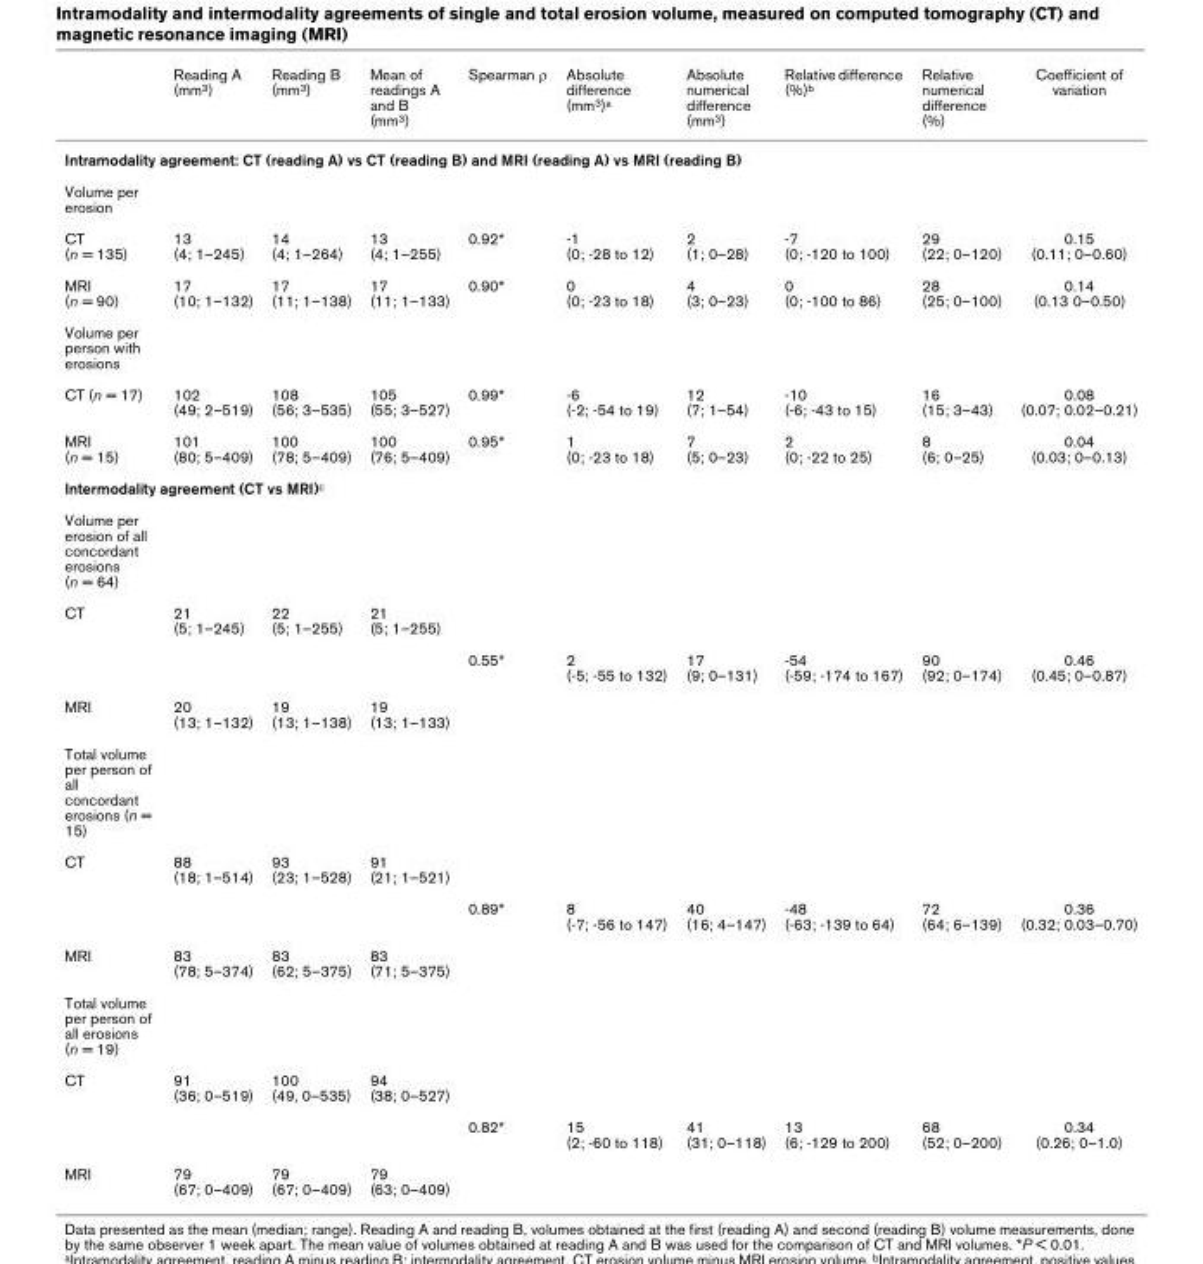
<table><thead><tr><td></td><td>Reading A (mm<sup>3</sup>)</td><td>Reading B (mm<sup>3</sup>)</td><td>Mean of readings A and B (mm<sup>3</sup>)</td><td>Spearman ρ</td><td>Absolute difference (mm<sup>3</sup>)<sup>a</sup></td><td>Absolute numerical difference (mm<sup>3</sup>)</td><td>Relative difference (%)<sup>b</sup></td><td>Relative numerical difference (%)</td><td>Coefficient of variation</td></tr></thead><tbody><tr><td colspan="10">Intramodality agreement: CT (reading A) vs CT (reading B) and MRI (reading A) vs MRI (reading B)</td></tr><tr><td colspan="10">Volume per erosion</td></tr><tr><td>CT (n = 135)</td><td>13 (4; 1–245)</td><td>14 (4; 1–264)</td><td>13 (4; 1–255)</td><td>0.92*</td><td>-1 (0; -28 to 12)</td><td>2 (1; 0–28)</td><td>-7 (0; -120 to 100)</td><td>29 (22; 0–120)</td><td>0.15 (0.11; 0–0.60)</td></tr><tr><td>MRI (n = 90)</td><td>17 (10; 1–132)</td><td>17 (11; 1–138)</td><td>17 (11; 1–133)</td><td>0.90*</td><td>0 (0; -23 to 18)</td><td>4 (3; 0–23)</td><td>0 (0; -100 to 86)</td><td>28 (25; 0–100)</td><td>0.14 (0.13 0–0.50)</td></tr><tr><td colspan="10">Volume per person with erosions</td></tr><tr><td>CT (n = 17)</td><td>102 (49; 2–519)</td><td>108 (56; 3–535)</td><td>105 (55; 3–527)</td><td>0.99*</td><td>-6 (-2; -54 to 19)</td><td>12 (7; 1–54)</td><td>-10 (-6; -43 to 15)</td><td>16 (15; 3–43)</td><td>0.08 (0.07; 0.02–0.21)</td></tr><tr><td>MRI (n = 15)</td><td>101 (80; 5–409)</td><td>100 (78; 5–409)</td><td>100 (76; 5–409)</td><td>0.95*</td><td>1 (0; -23 to 18)</td><td>7 (5; 0–23)</td><td>2 (0; -22 to 25)</td><td>8 (6; 0–25)</td><td>0.04 (0.03; 0–0.13)</td></tr><tr><td colspan="10">Intermodality agreement (CT vs MRI)<sup>c</sup></td></tr><tr><td colspan="10">Volume per erosion of all concordant erosions (n = 64)</td></tr><tr><td rowspan="2">CT</td><td>21 (5; 1–245)</td><td>22 (5; 1–255)</td><td>21 (5; 1–255)</td><td></td><td></td><td></td><td></td><td></td><td></td></tr><tr><td></td><td></td><td></td><td>0.55*</td><td>2 (-5; -55 to 132)</td><td>17 (9; 0–131)</td><td>-54 (-59; -174 to 167)</td><td>90 (92; 0–174)</td><td>0.46 (0.45; 0–0.87)</td></tr><tr><td>MRI</td><td>20 (13; 1–132)</td><td>19 (13; 1–138)</td><td>19 (13; 1–133)</td><td></td><td></td><td></td><td></td><td></td><td></td></tr><tr><td colspan="10">Total volume per person of all concordant erosions (n = 15)</td></tr><tr><td rowspan="2">CT</td><td>88 (18; 1–514)</td><td>93 (23; 1–528)</td><td>91 (21; 1–521)</td><td></td><td></td><td></td><td></td><td></td><td></td></tr><tr><td></td><td></td><td></td><td>0.89*</td><td>8 (-7; -56 to 147)</td><td>40 (16; 4–147)</td><td>-48 (-63; -139 to 64)</td><td>72 (64; 6–139)</td><td>0.36 (0.32; 0.03–0.70)</td></tr><tr><td>MRI</td><td>83 (78; 5–374)</td><td>83 (62; 5–375)</td><td>83 (71; 5–375)</td><td></td><td></td><td></td><td></td><td></td><td></td></tr><tr><td colspan="10">Total volume per person of all erosions (n = 19)</td></tr><tr><td rowspan="2">CT</td><td>91 (36; 0–519)</td><td>100 (49, 0–535)</td><td>94 (38; 0–527)</td><td></td><td></td><td></td><td></td><td></td><td></td></tr><tr><td></td><td></td><td></td><td>0.82*</td><td>15 (2; -60 to 118)</td><td>41 (31; 0–118)</td><td>13 (6; -129 to 200)</td><td>68 (52; 0–200)</td><td>0.34 (0.26; 0–1.0)</td></tr><tr><td>MRI</td><td>79 (67; 0–409)</td><td>79 (67; 0–409)</td><td>79 (63; 0–409)</td><td></td><td></td><td></td><td></td><td></td><td></td></tr></tbody></table>